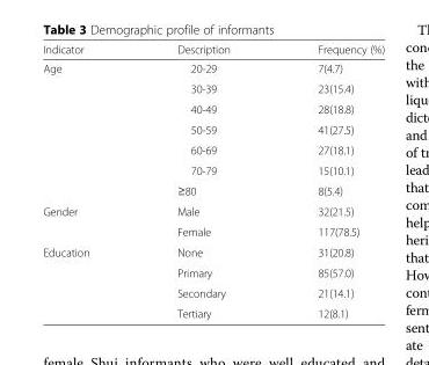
<table><thead><tr><td>Indicator</td><td>Description</td><td>Frequency (%)</td></tr></thead><tbody><tr><td rowspan="7">Age</td><td>20-29</td><td>7(4.7)</td></tr><tr><td>30-39</td><td>23(15.4)</td></tr><tr><td>40-49</td><td>28(18.8)</td></tr><tr><td>50-59</td><td>41(27.5)</td></tr><tr><td>60-69</td><td>27(18.1)</td></tr><tr><td>70-79</td><td>15(10.1)</td></tr><tr><td>≥80</td><td>8(5.4)</td></tr><tr><td rowspan="2">Gender</td><td>Male</td><td>32(21.5)</td></tr><tr><td>Female</td><td>117(78.5)</td></tr><tr><td rowspan="4">Education</td><td>None</td><td>31(20.8)</td></tr><tr><td>Primary</td><td>85(57.0)</td></tr><tr><td>Secondary</td><td>21(14.1)</td></tr><tr><td>Tertiary</td><td>12(8.1)</td></tr></tbody></table>